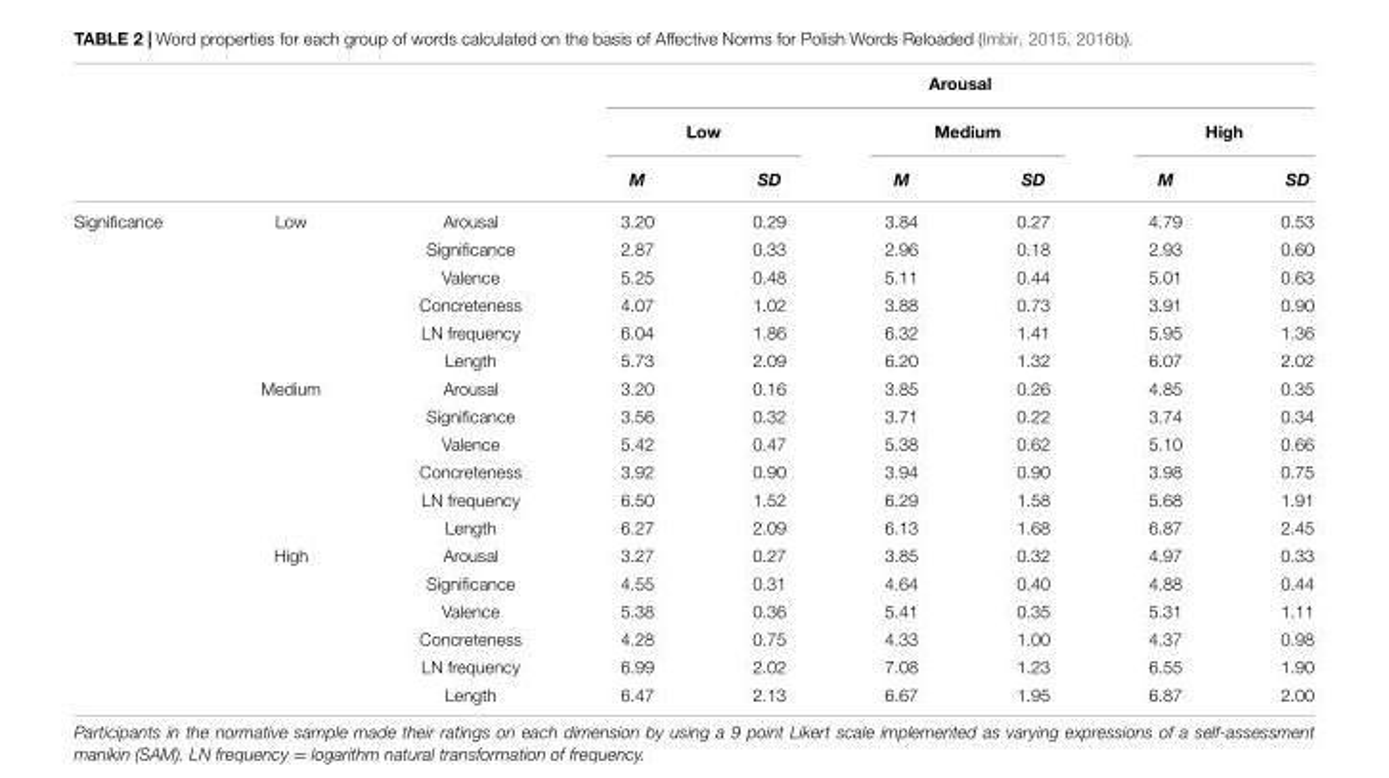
<table><thead><tr><td rowspan="3"></td><td rowspan="3"></td><td rowspan="3"></td><td colspan="6">Arousal</td></tr><tr><td colspan="2">Low</td><td colspan="2">Medium</td><td colspan="2">High</td></tr><tr><td>M</td><td>SD</td><td>M</td><td>SD</td><td>M</td><td>SD</td></tr></thead><tbody><tr><td rowspan="18">Significance</td><td>Low</td><td>Arousal</td><td>3.20</td><td>0.29</td><td>3.84</td><td>0.27</td><td>4.79</td><td>0.53</td></tr><tr><td></td><td>Significance</td><td>2.87</td><td>0.33</td><td>2.96</td><td>0.18</td><td>2.93</td><td>0.60</td></tr><tr><td></td><td>Valence</td><td>5.25</td><td>0.48</td><td>5.11</td><td>0.44</td><td>5.01</td><td>0.63</td></tr><tr><td></td><td>Concreteness</td><td>4.07</td><td>1.02</td><td>3.88</td><td>0.73</td><td>3.91</td><td>0.90</td></tr><tr><td></td><td>LN frequency</td><td>6.04</td><td>1.86</td><td>6.32</td><td>1.41</td><td>5.95</td><td>1.36</td></tr><tr><td></td><td>Length</td><td>5.73</td><td>2.09</td><td>6.20</td><td>1.32</td><td>6.07</td><td>2.02</td></tr><tr><td>Medium</td><td>Arousal</td><td>3.20</td><td>0.16</td><td>3.85</td><td>0.26</td><td>4.85</td><td>0.35</td></tr><tr><td></td><td>Significance</td><td>3.56</td><td>0.32</td><td>3.71</td><td>0.22</td><td>3.74</td><td>0.34</td></tr><tr><td></td><td>Valence</td><td>5.42</td><td>0.47</td><td>5.38</td><td>0.62</td><td>5.10</td><td>0.66</td></tr><tr><td></td><td>Concreteness</td><td>3.92</td><td>0.90</td><td>3.94</td><td>0.90</td><td>3.98</td><td>0.75</td></tr><tr><td></td><td>LN frequency</td><td>6.50</td><td>1.52</td><td>6.29</td><td>1.58</td><td>5.68</td><td>1.91</td></tr><tr><td></td><td>Length</td><td>6.27</td><td>2.09</td><td>6.13</td><td>1.68</td><td>6.87</td><td>2.45</td></tr><tr><td>High</td><td>Arousal</td><td>3.27</td><td>0.27</td><td>3.85</td><td>0.32</td><td>4.97</td><td>0.33</td></tr><tr><td></td><td>Significance</td><td>4.55</td><td>0.31</td><td>4.64</td><td>0.40</td><td>4.88</td><td>0.44</td></tr><tr><td></td><td>Valence</td><td>5.38</td><td>0.36</td><td>5.41</td><td>0.35</td><td>5.31</td><td>1.11</td></tr><tr><td></td><td>Concreteness</td><td>4.28</td><td>0.75</td><td>4.33</td><td>1.00</td><td>4.37</td><td>0.98</td></tr><tr><td></td><td>LN frequency</td><td>6.99</td><td>2.02</td><td>7.08</td><td>1.23</td><td>6.55</td><td>1.90</td></tr><tr><td></td><td>Length</td><td>6.47</td><td>2.13</td><td>6.67</td><td>1.95</td><td>6.87</td><td>2.00</td></tr></tbody></table>